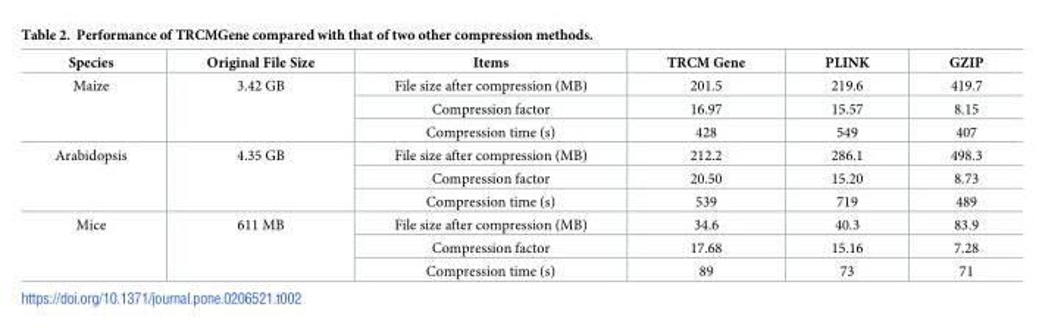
<table><thead><tr><td>Species</td><td>Original File Size</td><td>Items</td><td>TRCM Gene</td><td>PLINK</td><td>GZIP</td></tr></thead><tbody><tr><td rowspan="3">Maize</td><td rowspan="3">3.42 GB</td><td>File size after compression (MB)</td><td>201.5</td><td>219.6</td><td>419.7</td></tr><tr><td>Compression factor</td><td>16.97</td><td>15.57</td><td>8.15</td></tr><tr><td>Compression time (s)</td><td>428</td><td>549</td><td>407</td></tr><tr><td rowspan="3">Arabidopsis</td><td rowspan="3">4.35 GB</td><td>File size after compression (MB)</td><td>212.2</td><td>286.1</td><td>498.3</td></tr><tr><td>Compression factor</td><td>20.50</td><td>15.20</td><td>8.73</td></tr><tr><td>Compression time (s)</td><td>539</td><td>719</td><td>489</td></tr><tr><td rowspan="3">Mice</td><td rowspan="3">611 MB</td><td>File size after compression (MB)</td><td>34.6</td><td>40.3</td><td>83.9</td></tr><tr><td>Compression factor</td><td>17.68</td><td>15.16</td><td>7.28</td></tr><tr><td>Compression time (s)</td><td>89</td><td>73</td><td>71</td></tr></tbody></table>